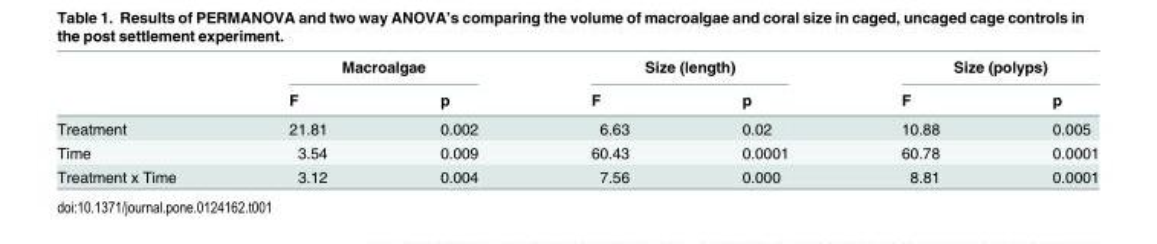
<table><thead><tr><td rowspan="2"></td><td colspan="2">Macroalgae</td><td colspan="2">Size (length)</td><td colspan="2">Size (polyps)</td></tr><tr><td>F</td><td>p</td><td>F</td><td>p</td><td>F</td><td>p</td></tr></thead><tbody><tr><td>Treatment</td><td>21.81</td><td>0.002</td><td>6.63</td><td>0.02</td><td>10.88</td><td>0.005</td></tr><tr><td>Time</td><td>3.54</td><td>0.009</td><td>60.43</td><td>0.0001</td><td>60.78</td><td>0.0001</td></tr><tr><td>Treatment x Time</td><td>3.12</td><td>0.004</td><td>7.56</td><td>0.000</td><td>8.81</td><td>0.0001</td></tr></tbody></table>